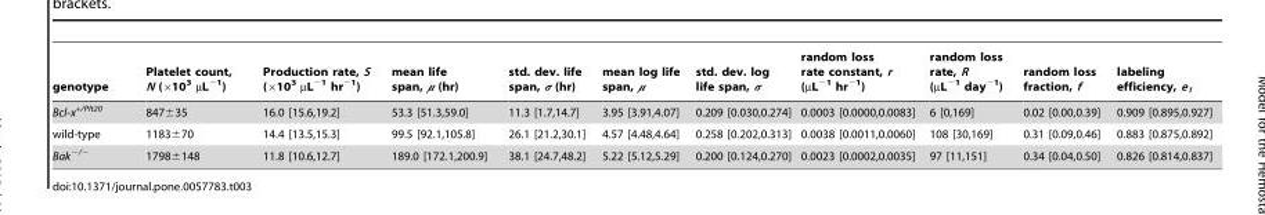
<table><thead><tr><td>genotype</td><td>Platelet count, N (×10<sup>3</sup> µL<sup>−1</sup>)</td><td>Production rate, S (×10<sup>3</sup> µL<sup>−1</sup> hr<sup>−1</sup>)</td><td>mean life span, μ (hr)</td><td>std. dev. life span, σ (hr)</td><td>mean log life span, μ</td><td>std. dev. log life span, σ</td><td>random loss rate constant, r (µL<sup>−1</sup> hr<sup>−1</sup>)</td><td>random loss rate, R (µL<sup>−1</sup> day<sup>−1</sup>)</td><td>random loss fraction, f</td><td>labeling efficiency, e<sub>1</sub></td></tr></thead><tbody><tr><td>Bcl-x<sup>+/Plt20</sup></td><td>847±35</td><td>16.0 [15.6,19.2]</td><td>53.3 [51.3,59.0]</td><td>11.3 [1.7,14.7]</td><td>3.95 [3.91,4.07]</td><td>0.209 [0.030,0.274]</td><td>0.0003 [0.0000,0.0083]</td><td>6 [0,169]</td><td>0.02 [0.00,0.39]</td><td>0.909 [0.895,0.927]</td></tr><tr><td>wild-type</td><td>1183±70</td><td>14.4 [13.5,15.3]</td><td>99.5 [92.1,105.8]</td><td>26.1 [21.2,30.1]</td><td>4.57 [4.48,4.64]</td><td>0.258 [0.202,0.313]</td><td>0.0038 [0.0011,0.0060]</td><td>108 [30,169]</td><td>0.31 [0.09,0.46]</td><td>0.883 [0.875,0.892]</td></tr><tr><td>Bak<sup>−/−</sup></td><td>1798±148</td><td>11.8 [10.6,12.7]</td><td>189.0 [172.1,200.9]</td><td>38.1 [24.7,48.2]</td><td>5.22 [5.12,5.29]</td><td>0.200 [0.124,0.270]</td><td>0.0023 [0.0002,0.0035]</td><td>97 [11,151]</td><td>0.34 [0.04,0.50]</td><td>0.826 [0.814,0.837]</td></tr></tbody></table>